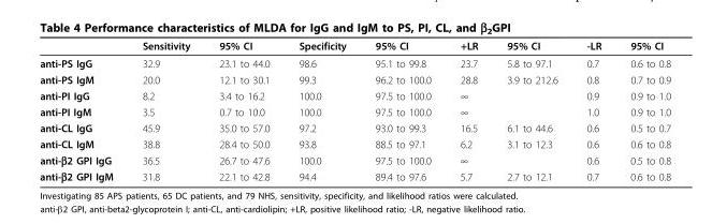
<table><thead><tr><td></td><td>Sensitivity</td><td>95% CI</td><td>Specificity</td><td>95% CI</td><td>+LR</td><td>95% CI</td><td>-LR</td><td>95% CI</td></tr></thead><tbody><tr><td>anti-PS IgG</td><td>32.9</td><td>23.1 to 44.0</td><td>98.6</td><td>95.1 to 99.8</td><td>23.7</td><td>5.8 to 97.1</td><td>0.7</td><td>0.6 to 0.8</td></tr><tr><td>anti-PS IgM</td><td>20.0</td><td>12.1 to 30.1</td><td>99.3</td><td>96.2 to 100.0</td><td>28.8</td><td>3.9 to 212.6</td><td>0.8</td><td>0.7 to 0.9</td></tr><tr><td>anti-PI IgG</td><td>8.2</td><td>3.4 to 16.2</td><td>100.0</td><td>97.5 to 100.0</td><td>∞</td><td></td><td>0.9</td><td>0.9 to 1.0</td></tr><tr><td>anti-PI IgM</td><td>3.5</td><td>0.7 to 10.0</td><td>100.0</td><td>97.5 to 100.0</td><td>∞</td><td></td><td>1.0</td><td>0.9 to 1.0</td></tr><tr><td>anti-CL IgG</td><td>45.9</td><td>35.0 to 57.0</td><td>97.2</td><td>93.0 to 99.3</td><td>16.5</td><td>6.1 to 44.6</td><td>0.6</td><td>0.5 to 0.7</td></tr><tr><td>anti-CL IgM</td><td>38.8</td><td>28.4 to 50.0</td><td>93.8</td><td>88.5 to 97.1</td><td>6.2</td><td>3.1 to 12.3</td><td>0.6</td><td>0.6 to 0.8</td></tr><tr><td>anti-β2 GPI IgG</td><td>36.5</td><td>26.7 to 47.6</td><td>100.0</td><td>97.5 to 100.0</td><td>∞</td><td></td><td>0.6</td><td>0.5 to 0.8</td></tr><tr><td>anti-β2 GPI IgM</td><td>31.8</td><td>22.1 to 42.8</td><td>94.4</td><td>89.4 to 97.6</td><td>5.7</td><td>2.7 to 12.1</td><td>0.7</td><td>0.6 to 0.8</td></tr></tbody></table>